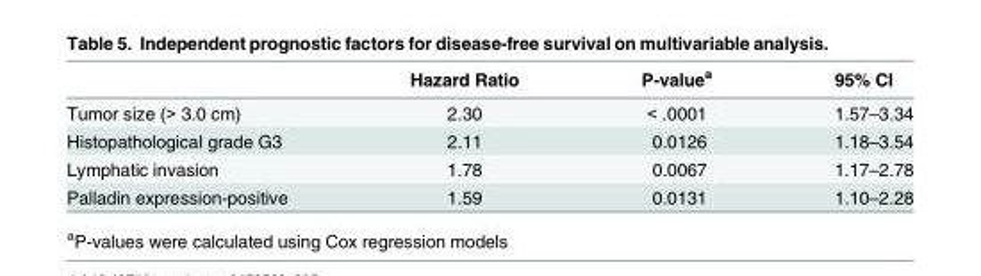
<table><thead><tr><td></td><td>Hazard Ratio</td><td>P-value<sup>a</sup></td><td>95% CI</td></tr></thead><tbody><tr><td>Tumor size (&gt; 3.0 cm)</td><td>2.30</td><td>&lt; .0001</td><td>1.57–3.34</td></tr><tr><td>Histopathological grade G3</td><td>2.11</td><td>0.0126</td><td>1.18–3.54</td></tr><tr><td>Lymphatic invasion</td><td>1.78</td><td>0.0067</td><td>1.17–2.78</td></tr><tr><td>Palladin expression-positive</td><td>1.59</td><td>0.0131</td><td>1.10–2.28</td></tr></tbody></table>